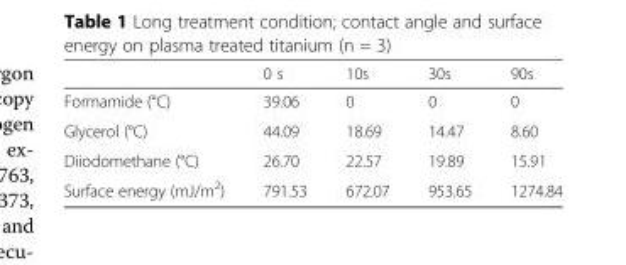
<table><thead><tr><td></td><td>0 s</td><td>10s</td><td>30s</td><td>90s</td></tr></thead><tbody><tr><td>Formamide (°C)</td><td>39.06</td><td>0</td><td>0</td><td>0</td></tr><tr><td>Glycerol (°C)</td><td>44.09</td><td>18.69</td><td>14.47</td><td>8.60</td></tr><tr><td>Diiodomethane (°C)</td><td>26.70</td><td>22.57</td><td>19.89</td><td>15.91</td></tr><tr><td>Surface energy (mJ/m<sup>2</sup>)</td><td>791.53</td><td>672.07</td><td>953.65</td><td>1274.84</td></tr></tbody></table>